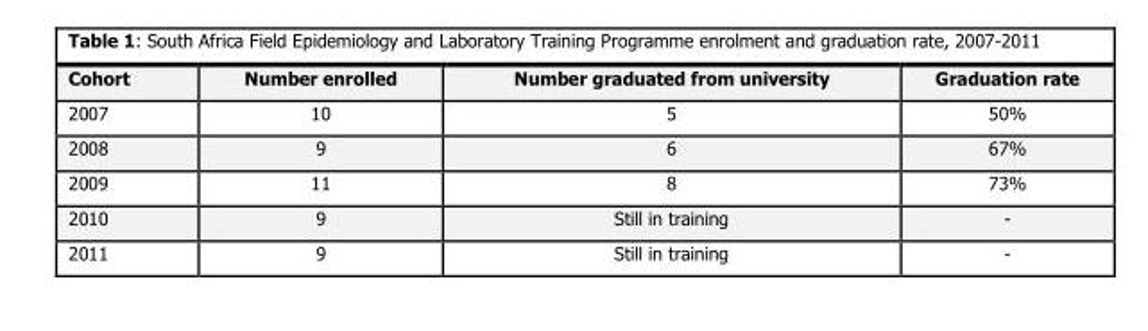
<table><thead><tr><td>Cohort</td><td>Number enrolled</td><td>Number graduated from university</td><td>Graduation rate</td></tr></thead><tbody><tr><td>2007</td><td>10</td><td>5</td><td>50%</td></tr><tr><td>2008</td><td>9</td><td>6</td><td>67%</td></tr><tr><td>2009</td><td>11</td><td>8</td><td>73%</td></tr><tr><td>2010</td><td>9</td><td>Still in training</td><td>-</td></tr><tr><td>2011</td><td>9</td><td>Still in training</td><td>-</td></tr></tbody></table>